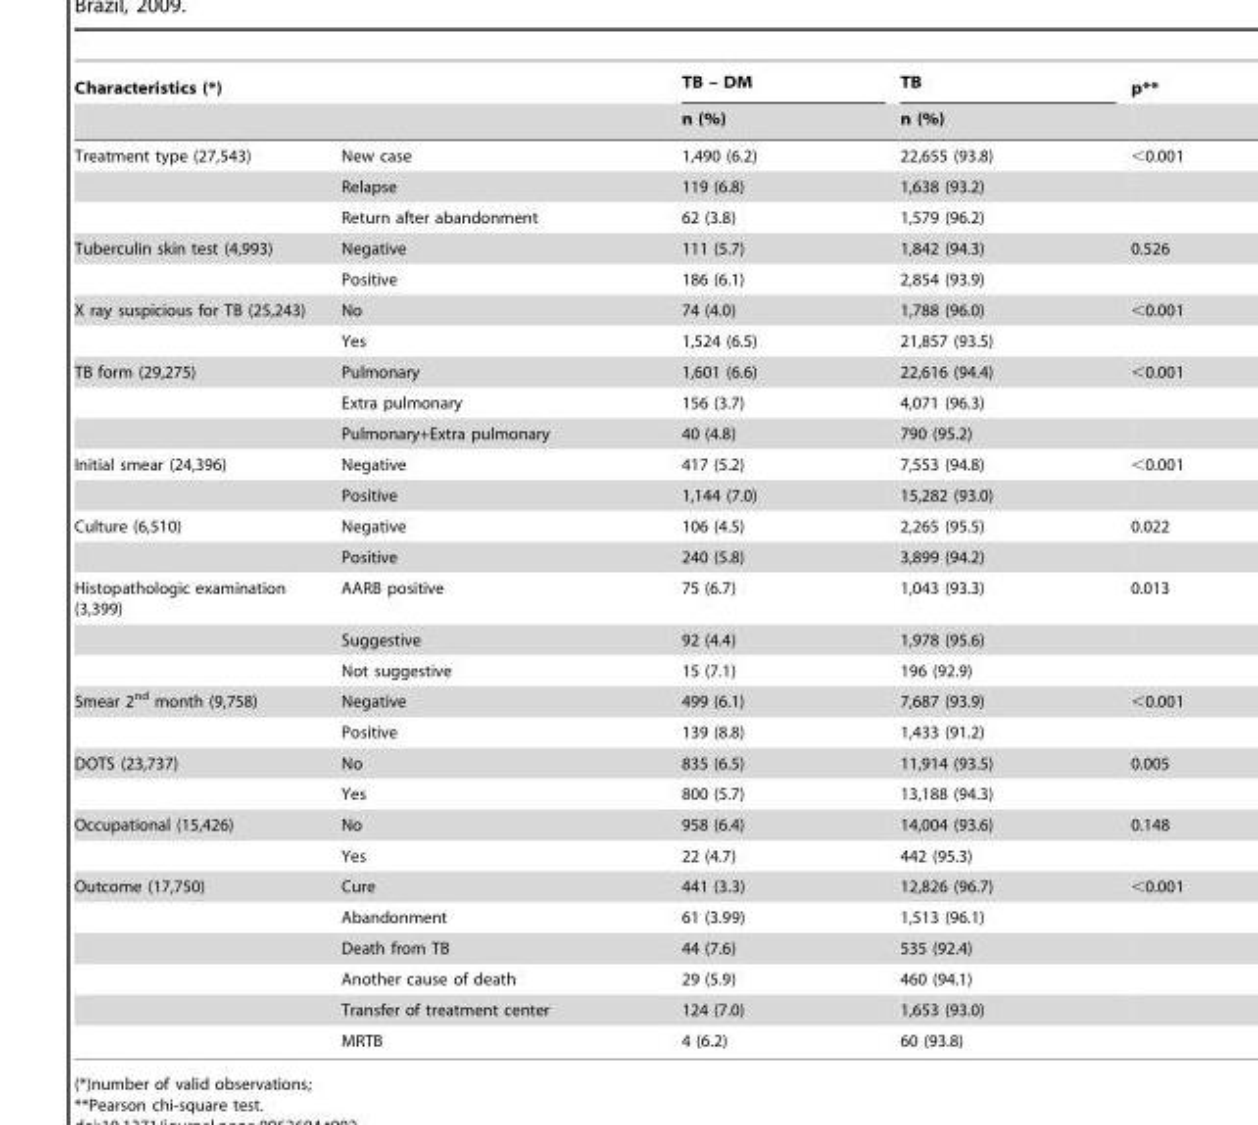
<table><thead><tr><td colspan="2">Characteristics (*)</td><td rowspan="2">TB – DM n (%)</td><td rowspan="2">TB n (%)</td><td rowspan="2">p**</td></tr><tr><td></td><td></td></tr></thead><tbody><tr><td rowspan="3">Treatment type (27,543)</td><td>New case</td><td>1,490 (6.2)</td><td>22,655 (93.8)</td><td>&lt;0.001</td></tr><tr><td>Relapse</td><td>119 (6.8)</td><td>1,638 (93.2)</td><td></td></tr><tr><td>Return after abandonment</td><td>62 (3.8)</td><td>1,579 (96.2)</td><td></td></tr><tr><td rowspan="2">Tuberculin skin test (4,993)</td><td>Negative</td><td>111 (5.7)</td><td>1,842 (94.3)</td><td>0.526</td></tr><tr><td>Positive</td><td>186 (6.1)</td><td>2,854 (93.9)</td><td></td></tr><tr><td rowspan="2">X ray suspicious for TB (25,243)</td><td>No</td><td>74 (4.0)</td><td>1,788 (96.0)</td><td>&lt;0.001</td></tr><tr><td>Yes</td><td>1,524 (6.5)</td><td>21,857 (93.5)</td><td></td></tr><tr><td rowspan="3">TB form (29,275)</td><td>Pulmonary</td><td>1,601 (6.6)</td><td>22,616 (94.4)</td><td>&lt;0.001</td></tr><tr><td>Extra pulmonary</td><td>156 (3.7)</td><td>4,071 (96.3)</td><td></td></tr><tr><td>Pulmonary+Extra pulmonary</td><td>40 (4.8)</td><td>790 (95.2)</td><td></td></tr><tr><td rowspan="2">Initial smear (24,396)</td><td>Negative</td><td>417 (5.2)</td><td>7,553 (94.8)</td><td>&lt;0.001</td></tr><tr><td>Positive</td><td>1,144 (7.0)</td><td>15,282 (93.0)</td><td></td></tr><tr><td rowspan="2">Culture (6,510)</td><td>Negative</td><td>106 (4.5)</td><td>2,265 (95.5)</td><td>0.022</td></tr><tr><td>Positive</td><td>240 (5.8)</td><td>3,899 (94.2)</td><td></td></tr><tr><td rowspan="3">Histopathologic examination (3,399)</td><td>AARB positive</td><td>75 (6.7)</td><td>1,043 (93.3)</td><td>0.013</td></tr><tr><td>Suggestive</td><td>92 (4.4)</td><td>1,978 (95.6)</td><td></td></tr><tr><td>Not suggestive</td><td>15 (7.1)</td><td>196 (92.9)</td><td></td></tr><tr><td rowspan="2">Smear 2<sup>nd</sup> month (9,758)</td><td>Negative</td><td>499 (6.1)</td><td>7,687 (93.9)</td><td>&lt;0.001</td></tr><tr><td>Positive</td><td>139 (8.8)</td><td>1,433 (91.2)</td><td></td></tr><tr><td rowspan="2">DOTS (23,737)</td><td>No</td><td>835 (6.5)</td><td>11,914 (93.5)</td><td>0.005</td></tr><tr><td>Yes</td><td>800 (5.7)</td><td>13,188 (94.3)</td><td></td></tr><tr><td rowspan="2">Occupational (15,426)</td><td>No</td><td>958 (6.4)</td><td>14,004 (93.6)</td><td>0.148</td></tr><tr><td>Yes</td><td>22 (4.7)</td><td>442 (95.3)</td><td></td></tr><tr><td rowspan="6">Outcome (17,750)</td><td>Cure</td><td>441 (3.3)</td><td>12,826 (96.7)</td><td>&lt;0.001</td></tr><tr><td>Abandonment</td><td>61 (3.99)</td><td>1,513 (96.1)</td><td></td></tr><tr><td>Death from TB</td><td>44 (7.6)</td><td>535 (92.4)</td><td></td></tr><tr><td>Another cause of death</td><td>29 (5.9)</td><td>460 (94.1)</td><td></td></tr><tr><td>Transfer of treatment center</td><td>124 (7.0)</td><td>1,653 (93.0)</td><td></td></tr><tr><td>MRTB</td><td>4 (6.2)</td><td>60 (93.8)</td><td></td></tr></tbody></table>